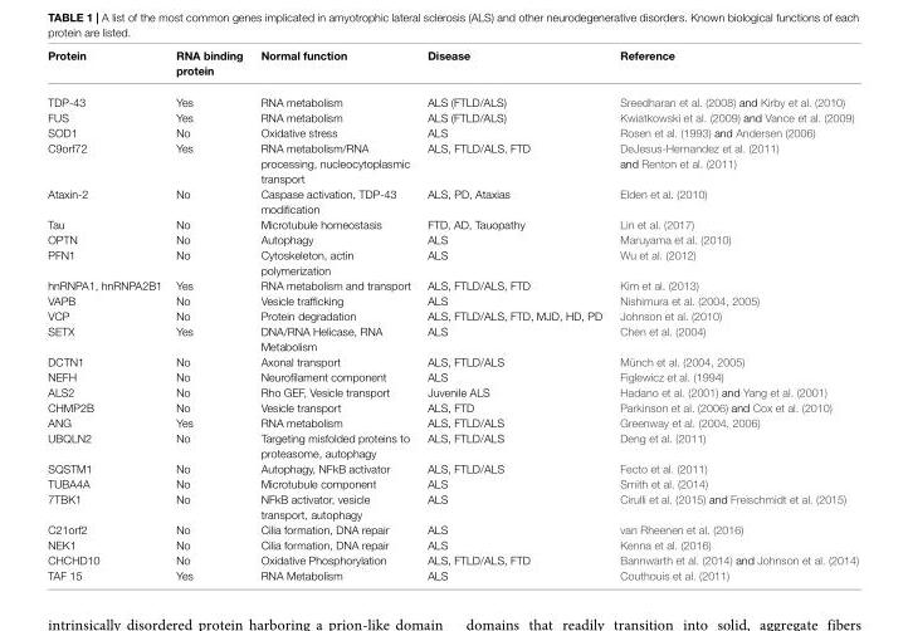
<table><thead><tr><td>Protein</td><td>RNA binding protein</td><td>Normal function</td><td>Disease</td><td>Reference</td></tr></thead><tbody><tr><td>TDP-43</td><td>Yes</td><td>RNA metabolism</td><td>ALS (FTLD/ALS)</td><td>Sreedharan et al. (2008) and Kirby et al. (2010)</td></tr><tr><td>FUS</td><td>Yes</td><td>RNA metabolism</td><td>ALS (FTLD/ALS)</td><td>Kwiatkowski et al. (2009) and Vance et al. (2009)</td></tr><tr><td>SOD1</td><td>No</td><td>Oxidative stress</td><td>ALS</td><td>Rosen et al. (1993) and Andersen (2006)</td></tr><tr><td>C9orf72</td><td>Yes</td><td>RNA metabolism/RNA processing, nucleocytoplasmic transport</td><td>ALS, FTLD/ALS, FTD</td><td>DeJesus-Hernandez et al. (2011) and Renton et al. (2011)</td></tr><tr><td>Ataxin-2</td><td>No</td><td>Caspase activation, TDP-43 modification</td><td>ALS, PD, Ataxias</td><td>Elden et al. (2010)</td></tr><tr><td>Tau</td><td>No</td><td>Microtubule homeostasis</td><td>FTD, AD, Tauopathy</td><td>Lin et al. (2017)</td></tr><tr><td>OPTN</td><td>No</td><td>Autophagy</td><td>ALS</td><td>Maruyama et al. (2010)</td></tr><tr><td>PFN1</td><td>No</td><td>Cytoskeleton, actin polymerization</td><td>ALS</td><td>Wu et al. (2012)</td></tr><tr><td>hnRNPA1, hnRNPA2B1</td><td>Yes</td><td>RNA metabolism and transport</td><td>ALS, FTLD/ALS, FTD</td><td>Kim et al. (2013)</td></tr><tr><td>VAPB</td><td>No</td><td>Vesicle trafficking</td><td>ALS</td><td>Nishimura et al. (2004, 2005)</td></tr><tr><td>VCP</td><td>No</td><td>Protein degradation</td><td>ALS, FTLD/ALS, FTD, MJD, HD, PD</td><td>Johnson et al. (2010)</td></tr><tr><td>SETX</td><td>Yes</td><td>DNA/RNA Helicase, RNA Metabolism</td><td>ALS</td><td>Chen et al. (2004)</td></tr><tr><td>DCTN1</td><td>No</td><td>Axonal transport</td><td>ALS, FTLD/ALS</td><td>Münch et al. (2004, 2005)</td></tr><tr><td>NEFH</td><td>No</td><td>Neurofilament component</td><td>ALS</td><td>Figlewicz et al. (1994)</td></tr><tr><td>ALS2</td><td>No</td><td>Rho GEF, Vesicle transport</td><td>Juvenile ALS</td><td>Hadano et al. (2001) and Yang et al. (2001)</td></tr><tr><td>CHMP2B</td><td>No</td><td>Vesicle transport</td><td>ALS, FTD</td><td>Parkinson et al. (2006) and Cox et al. (2010)</td></tr><tr><td>ANG</td><td>Yes</td><td>RNA metabolism</td><td>ALS, FTLD/ALS</td><td>Greenway et al. (2004, 2006)</td></tr><tr><td>UBQLN2</td><td>No</td><td>Targeting misfolded proteins to proteasome, autophagy</td><td>ALS, FTLD/ALS</td><td>Deng et al. (2011)</td></tr><tr><td>SQSTM1</td><td>No</td><td>Autophagy, NFkB activator</td><td>ALS, FTLD/ALS</td><td>Fecto et al. (2011)</td></tr><tr><td>TUBA4A</td><td>No</td><td>Microtubule component</td><td>ALS</td><td>Smith et al. (2014)</td></tr><tr><td>7TBK1</td><td>No</td><td>NFkB activator, vesicle transport, autophagy</td><td>ALS</td><td>Cirulli et al. (2015) and Freischmidt et al. (2015)</td></tr><tr><td>C21orf2</td><td>No</td><td>Cilia formation, DNA repair</td><td>ALS</td><td>van Rheenen et al. (2016)</td></tr><tr><td>NEK1</td><td>No</td><td>Cilia formation, DNA repair</td><td>ALS</td><td>Kenna et al. (2016)</td></tr><tr><td>CHCHD10</td><td>No</td><td>Oxidative Phosphorylation</td><td>ALS, FTLD/ALS, FTD</td><td>Bannwarth et al. (2014) and Johnson et al. (2014)</td></tr><tr><td>TAF 15</td><td>Yes</td><td>RNA Metabolism</td><td>ALS</td><td>Couthouis et al. (2011)</td></tr></tbody></table>